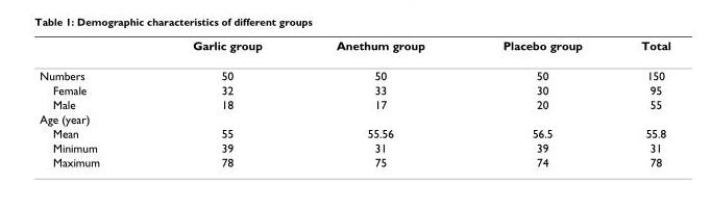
<table><thead><tr><td></td><td>Garlic group</td><td>Anethum group</td><td>Placebo group</td><td>Total</td></tr></thead><tbody><tr><td>Numbers</td><td>50</td><td>50</td><td>50</td><td>150</td></tr><tr><td>Female</td><td>32</td><td>33</td><td>30</td><td>95</td></tr><tr><td>Male</td><td>18</td><td>17</td><td>20</td><td>55</td></tr><tr><td colspan="5">Age (year)</td></tr><tr><td>Mean</td><td>55</td><td>55.56</td><td>56.5</td><td>55.8</td></tr><tr><td>Minimum</td><td>39</td><td>31</td><td>39</td><td>31</td></tr><tr><td>Maximum</td><td>78</td><td>75</td><td>74</td><td>78</td></tr></tbody></table>